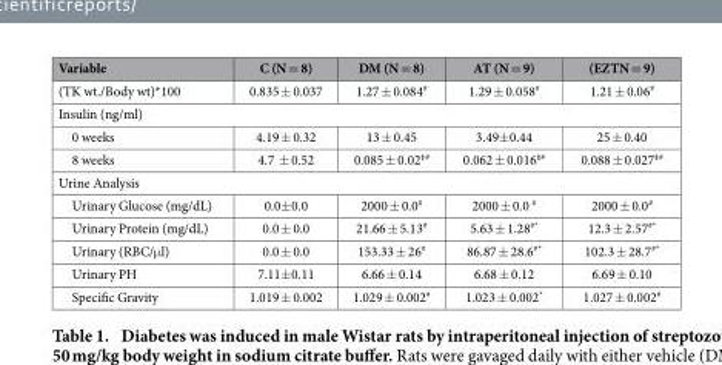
<table><thead><tr><td>Variable</td><td>C (N = 8)</td><td>DM (N = 8)</td><td>AT (N = 9)</td><td>(EZTN = 9)</td></tr></thead><tbody><tr><td>(TK wt./Body wt)*100</td><td>0.835 ± 0.037</td><td>1.27 ± 0.084#</td><td>1.29 ± 0.058#</td><td>1.21 ± 0.06#</td></tr><tr><td colspan="5">Insulin (ng/ml)</td></tr><tr><td>0 weeks</td><td>4.19 ± 0.32</td><td>13 ± 0.45</td><td>3.49± 0.44</td><td>25 ± 0.40</td></tr><tr><td>8 weeks</td><td>4.7 ± 0.52</td><td>0.085 ± 0.02‡#</td><td>0.062 ± 0.016‡#</td><td>0.088 ± 0.027‡#</td></tr><tr><td colspan="5">Urine Analysis</td></tr><tr><td>Urinary Glucose (mg/dL)</td><td>0.0± 0.0</td><td>2000 ± 0.0#</td><td>2000 ± 0.0 #</td><td>2000 ± 0.0#</td></tr><tr><td>Urinary Protein (mg/dL)</td><td>0.0 ± 0.0</td><td>21.66 ± 5.13#</td><td>5.63 ± 1.28#*</td><td>12.3 ± 2.57#*</td></tr><tr><td>Urinary (RBC/μ l)</td><td>0.0 ± 0.0</td><td>153.33 ± 26#</td><td>86.87 ± 28.6#*</td><td>102.3 ± 28.7#*</td></tr><tr><td>Urinary PH</td><td>7.11± 0.11</td><td>6.66 ± 0.14</td><td>6.68 ± 0.12</td><td>6.69 ± 0.10</td></tr><tr><td>Specific Gravity</td><td>1.019 ± 0.002</td><td>1.029 ± 0.002#</td><td>1.023 ± 0.002*</td><td>1.027 ± 0.002#</td></tr></tbody></table>